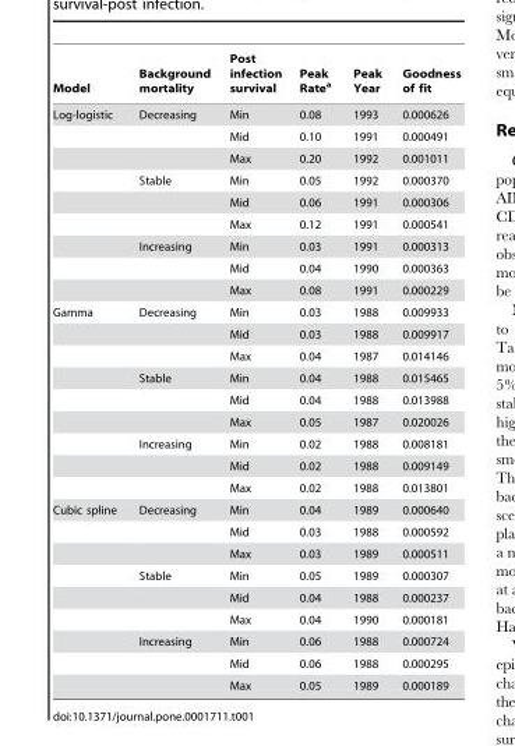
<table><thead><tr><td>Model</td><td>Background mortality</td><td>Post infection survival</td><td>Peak Rate<sup>a</sup></td><td>Peak Year</td><td>Goodness of fit</td></tr></thead><tbody><tr><td rowspan="9">Log-logistic</td><td>Decreasing</td><td>Min</td><td>0.08</td><td>1993</td><td>0.000626</td></tr><tr><td></td><td>Mid</td><td>0.10</td><td>1991</td><td>0.000491</td></tr><tr><td></td><td>Max</td><td>0.20</td><td>1992</td><td>0.001011</td></tr><tr><td>Stable</td><td>Min</td><td>0.05</td><td>1992</td><td>0.000370</td></tr><tr><td></td><td>Mid</td><td>0.06</td><td>1991</td><td>0.000306</td></tr><tr><td></td><td>Max</td><td>0.12</td><td>1991</td><td>0.000541</td></tr><tr><td>Increasing</td><td>Min</td><td>0.03</td><td>1991</td><td>0.000313</td></tr><tr><td></td><td>Mid</td><td>0.04</td><td>1990</td><td>0.000363</td></tr><tr><td></td><td>Max</td><td>0.08</td><td>1991</td><td>0.000229</td></tr><tr><td rowspan="9">Gamma</td><td>Decreasing</td><td>Min</td><td>0.03</td><td>1988</td><td>0.009933</td></tr><tr><td></td><td>Mid</td><td>0.03</td><td>1988</td><td>0.009917</td></tr><tr><td></td><td>Max</td><td>0.04</td><td>1987</td><td>0.014146</td></tr><tr><td>Stable</td><td>Min</td><td>0.04</td><td>1988</td><td>0.015465</td></tr><tr><td></td><td>Mid</td><td>0.04</td><td>1988</td><td>0.013988</td></tr><tr><td></td><td>Max</td><td>0.05</td><td>1987</td><td>0.020026</td></tr><tr><td>Increasing</td><td>Min</td><td>0.02</td><td>1988</td><td>0.008181</td></tr><tr><td></td><td>Mid</td><td>0.02</td><td>1988</td><td>0.009149</td></tr><tr><td></td><td>Max</td><td>0.02</td><td>1988</td><td>0.013801</td></tr><tr><td rowspan="9">Cubic spline</td><td>Decreasing</td><td>Min</td><td>0.04</td><td>1989</td><td>0.000640</td></tr><tr><td></td><td>Mid</td><td>0.03</td><td>1988</td><td>0.000592</td></tr><tr><td></td><td>Max</td><td>0.03</td><td>1989</td><td>0.000511</td></tr><tr><td>Stable</td><td>Min</td><td>0.05</td><td>1989</td><td>0.000307</td></tr><tr><td></td><td>Mid</td><td>0.04</td><td>1988</td><td>0.000237</td></tr><tr><td></td><td>Max</td><td>0.04</td><td>1990</td><td>0.000181</td></tr><tr><td>Increasing</td><td>Min</td><td>0.06</td><td>1988</td><td>0.000724</td></tr><tr><td></td><td>Mid</td><td>0.06</td><td>1988</td><td>0.000295</td></tr><tr><td></td><td>Max</td><td>0.05</td><td>1989</td><td>0.000189</td></tr></tbody></table>